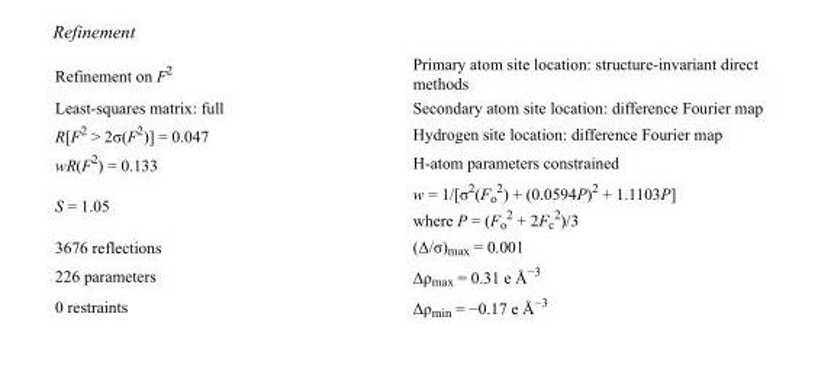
<table><tbody><tr><td>Refinement on F<sup>2</sup></td><td>Primary atom site location: structure-invariant direct methods</td></tr><tr><td>Least-squares matrix: full</td><td>Secondary atom site location: difference Fourier map</td></tr><tr><td>R[F<sup>2</sup> &gt; 2σ(F<sup>2</sup>)] = 0.047</td><td>Hydrogen site location: difference Fourier map</td></tr><tr><td>wR(F<sup>2</sup>) = 0.133</td><td>H-atom parameters constrained</td></tr><tr><td>S = 1.05</td><td>w = 1/[σ<sup>2</sup>(F<sub>o</sub> <sup>2</sup>) + (0.0594P)<sup>2</sup> + 1.1103P] where P = (F<sub>o</sub> <sup>2</sup> + 2F<sub>c</sub> <sup>2</sup>)/3</td></tr><tr><td>3676 reflections</td><td>(Δ/σ)<sub>max</sub> = 0.001</td></tr><tr><td>226 parameters</td><td>Δρ<sub>max</sub> = 0.31 e Å<sup>−3</sup></td></tr><tr><td>0 restraints</td><td>Δρ<sub>min</sub> = −0.17 e Å<sup>−3</sup></td></tr></tbody></table>